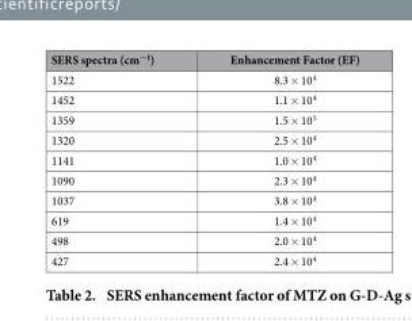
<table><thead><tr><td>SERS spectra (cm<sup>−1</sup>)</td><td>Enhancement Factor (EF)</td></tr></thead><tbody><tr><td>1522</td><td>8.3 × 10<sup>4</sup></td></tr><tr><td>1452</td><td>1.1 × 10<sup>4</sup></td></tr><tr><td>1359</td><td>1.5 × 10<sup>5</sup></td></tr><tr><td>1320</td><td>2.5 × 10<sup>4</sup></td></tr><tr><td>1141</td><td>1.0 × 10<sup>4</sup></td></tr><tr><td>1090</td><td>2.3 × 10<sup>4</sup></td></tr><tr><td>1037</td><td>3.8 × 10<sup>4</sup></td></tr><tr><td>619</td><td>1.4 × 10<sup>4</sup></td></tr><tr><td>498</td><td>2.0 × 10<sup>4</sup></td></tr><tr><td>427</td><td>2.4 × 10<sup>4</sup></td></tr></tbody></table>